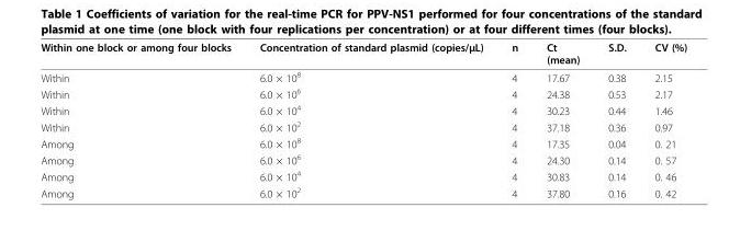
<table><thead><tr><td>Within one block or among four blocks</td><td>Concentration of standard plasmid (copies/μL)</td><td>n</td><td>Ct (mean)</td><td>S.D.</td><td>CV (%)</td></tr></thead><tbody><tr><td>Within</td><td>6.0 × 10<sup>8</sup></td><td>4</td><td>17.67</td><td>0.38</td><td>2.15</td></tr><tr><td>Within</td><td>6.0 × 10<sup>6</sup></td><td>4</td><td>24.38</td><td>0.53</td><td>2.17</td></tr><tr><td>Within</td><td>6.0 × 10<sup>4</sup></td><td>4</td><td>30.23</td><td>0.44</td><td>1.46</td></tr><tr><td>Within</td><td>6.0 × 10<sup>2</sup></td><td>4</td><td>37.18</td><td>0.36</td><td>0.97</td></tr><tr><td>Among</td><td>6.0 × 10<sup>8</sup></td><td>4</td><td>17.35</td><td>0.04</td><td>0. 21</td></tr><tr><td>Among</td><td>6.0 × 10<sup>6</sup></td><td>4</td><td>24.30</td><td>0.14</td><td>0. 57</td></tr><tr><td>Among</td><td>6.0 × 10<sup>4</sup></td><td>4</td><td>30.83</td><td>0.14</td><td>0. 46</td></tr><tr><td>Among</td><td>6.0 × 10<sup>2</sup></td><td>4</td><td>37.80</td><td>0.16</td><td>0. 42</td></tr></tbody></table>